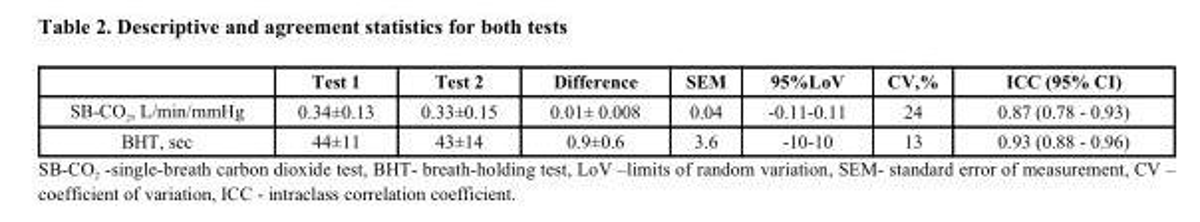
<table><thead><tr><td></td><td>Test 1</td><td>Test 2</td><td>Difference</td><td>SEM</td><td>95%LoV</td><td>CV,%</td><td>ICC (95% CI)</td></tr></thead><tbody><tr><td>SB-CO<sub>2</sub>, L/min/mmHg</td><td>0.34±0.13</td><td>0.33±0.15</td><td>0.01± 0.008</td><td>0.04</td><td>-0.11-0.11</td><td>24</td><td>0.87 (0.78 - 0.93)</td></tr><tr><td>BHT, sec</td><td>44±11</td><td>43±14</td><td>0.9±0.6</td><td>3.6</td><td>-10-10</td><td>13</td><td>0.93 (0.88 - 0.96)</td></tr></tbody></table>